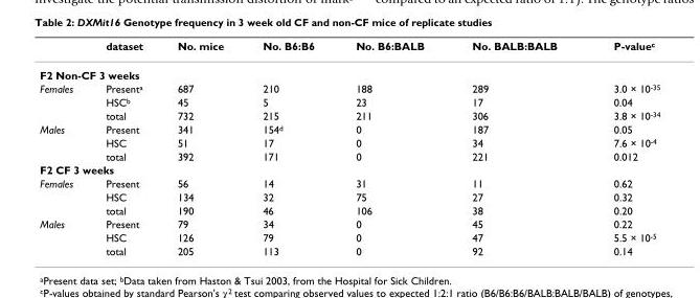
<table><thead><tr><td></td><td>dataset</td><td>No. mice</td><td>No. B6:B6</td><td>No. B6:BALB</td><td>No. BALB:BALB</td><td>P-value<sup>c</sup></td></tr></thead><tbody><tr><td colspan="7">F2 Non-CF 3 weeks</td></tr><tr><td rowspan="3">Females</td><td>Present<sup>a</sup></td><td>687</td><td>210</td><td>188</td><td>289</td><td>3.0 × 10<sup>-35</sup></td></tr><tr><td>HSC<sup>b</sup></td><td>45</td><td>5</td><td>23</td><td>17</td><td>0.04</td></tr><tr><td>total</td><td>732</td><td>215</td><td>211</td><td>306</td><td>3.8 × 10<sup>-34</sup></td></tr><tr><td rowspan="3">Males</td><td>Present</td><td>341</td><td>154<sup>d</sup></td><td>0</td><td>187</td><td>0.05</td></tr><tr><td>HSC</td><td>51</td><td>17</td><td>0</td><td>34</td><td>7.6 × 10<sup>-4</sup></td></tr><tr><td>total</td><td>392</td><td>171</td><td>0</td><td>221</td><td>0.012</td></tr><tr><td colspan="7">F2 CF 3 weeks</td></tr><tr><td rowspan="3">Females</td><td>Present</td><td>56</td><td>14</td><td>31</td><td>11</td><td>0.62</td></tr><tr><td>HSC</td><td>134</td><td>32</td><td>75</td><td>27</td><td>0.32</td></tr><tr><td>total</td><td>190</td><td>46</td><td>106</td><td>38</td><td>0.20</td></tr><tr><td rowspan="3">Males</td><td>Present</td><td>79</td><td>34</td><td>0</td><td>45</td><td>0.22</td></tr><tr><td>HSC</td><td>126</td><td>79</td><td>0</td><td>47</td><td>5.5 × 10<sup>-5</sup></td></tr><tr><td>total</td><td>205</td><td>113</td><td>0</td><td>92</td><td>0.14</td></tr></tbody></table>